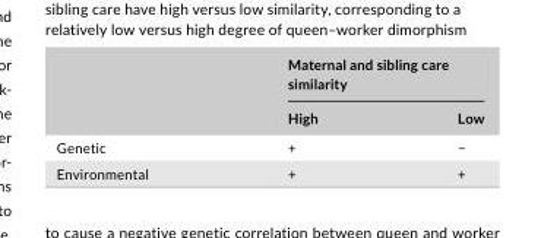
<table><thead><tr><td rowspan="2"></td><td colspan="2">Maternal and sibling care similarity</td></tr><tr><td>High</td><td>Low</td></tr></thead><tbody><tr><td>Genetic</td><td>+</td><td>−</td></tr><tr><td>Environmental</td><td>+</td><td>+</td></tr></tbody></table>